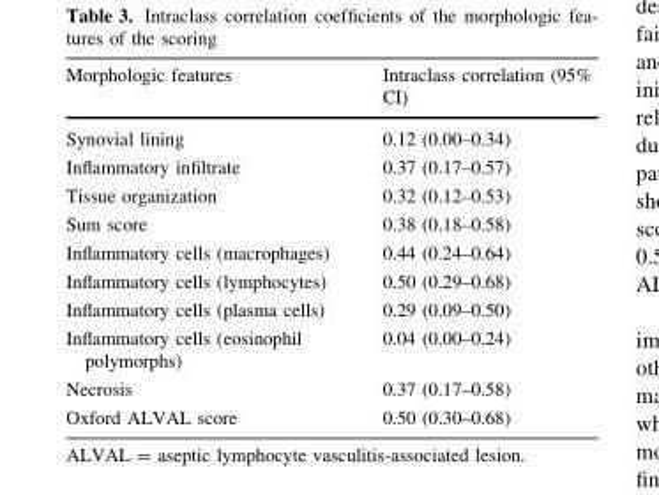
<table><thead><tr><td>Morphologic features</td><td>Intraclass correlation (95% CI)</td></tr></thead><tbody><tr><td>Synovial lining</td><td>0.12 (0.00–0.34)</td></tr><tr><td>Inflammatory infiltrate</td><td>0.37 (0.17–0.57)</td></tr><tr><td>Tissue organization</td><td>0.32 (0.12–0.53)</td></tr><tr><td>Sum score</td><td>0.38 (0.18–0.58)</td></tr><tr><td>Inflammatory cells (macrophages)</td><td>0.44 (0.24–0.64)</td></tr><tr><td>Inflammatory cells (lymphocytes)</td><td>0.50 (0.29–0.68)</td></tr><tr><td>Inflammatory cells (plasma cells)</td><td>0.29 (0.09–0.50)</td></tr><tr><td>Inflammatory cells (eosinophil polymorphs)</td><td>0.04 (0.00–0.24)</td></tr><tr><td>Necrosis</td><td>0.37 (0.17–0.58)</td></tr><tr><td>Oxford ALVAL score</td><td>0.50 (0.30–0.68)</td></tr></tbody></table>